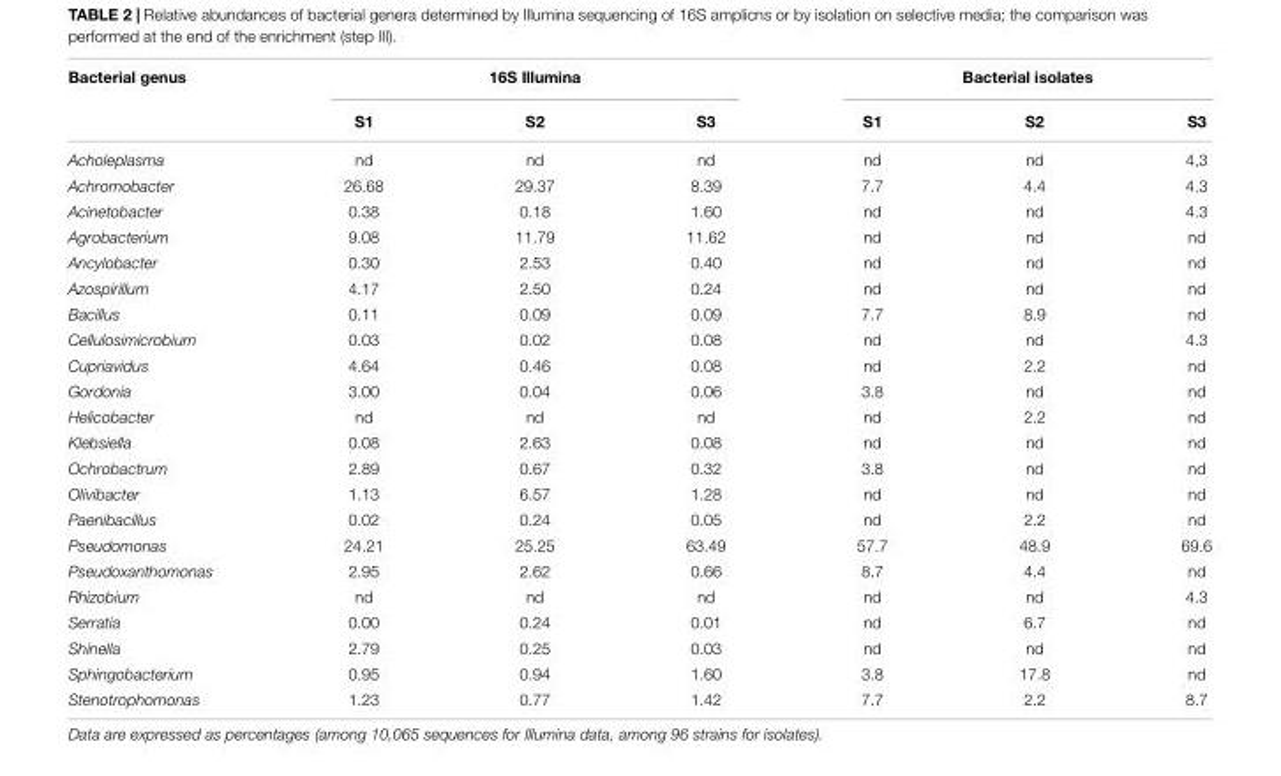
<table><thead><tr><td rowspan="2">Bacterial genus</td><td colspan="3">16S Illumina</td><td colspan="3">Bacterial isolates</td></tr><tr><td>S1</td><td>S2</td><td>S3</td><td>S1</td><td>S2</td><td>S3</td></tr></thead><tbody><tr><td>Acholeplasma</td><td>nd</td><td>nd</td><td>nd</td><td>nd</td><td>nd</td><td>4,3</td></tr><tr><td>Achromobacter</td><td>26.68</td><td>29.37</td><td>8.39</td><td>7.7</td><td>4.4</td><td>4.3</td></tr><tr><td>Acinetobacter</td><td>0.38</td><td>0.18</td><td>1.60</td><td>nd</td><td>nd</td><td>4.3</td></tr><tr><td>Agrobacterium</td><td>9.08</td><td>11.79</td><td>11.62</td><td>nd</td><td>nd</td><td>nd</td></tr><tr><td>Ancylobacter</td><td>0.30</td><td>2.53</td><td>0.40</td><td>nd</td><td>nd</td><td>nd</td></tr><tr><td>Azospirillum</td><td>4.17</td><td>2.50</td><td>0.24</td><td>nd</td><td>nd</td><td>nd</td></tr><tr><td>Bacillus</td><td>0.11</td><td>0.09</td><td>0.09</td><td>7.7</td><td>8.9</td><td>nd</td></tr><tr><td>Cellulosimicrobium</td><td>0.03</td><td>0.02</td><td>0.08</td><td>nd</td><td>nd</td><td>4.3</td></tr><tr><td>Cupriavidus</td><td>4.64</td><td>0.46</td><td>0.08</td><td>nd</td><td>2.2</td><td>nd</td></tr><tr><td>Gordonia</td><td>3.00</td><td>0.04</td><td>0.06</td><td>3.8</td><td>nd</td><td>nd</td></tr><tr><td>Helicobacter</td><td>nd</td><td>nd</td><td>nd</td><td>nd</td><td>2.2</td><td>nd</td></tr><tr><td>Klebsiella</td><td>0.08</td><td>2.63</td><td>0.08</td><td>nd</td><td>nd</td><td>nd</td></tr><tr><td>Ochrobactrum</td><td>2.89</td><td>0.67</td><td>0.32</td><td>3.8</td><td>nd</td><td>nd</td></tr><tr><td>Olivibacter</td><td>1.13</td><td>6.57</td><td>1.28</td><td>nd</td><td>nd</td><td>nd</td></tr><tr><td>Paenibacillus</td><td>0.02</td><td>0.24</td><td>0.05</td><td>nd</td><td>2.2</td><td>nd</td></tr><tr><td>Pseudomonas</td><td>24.21</td><td>25.25</td><td>63.49</td><td>57.7</td><td>48.9</td><td>69.6</td></tr><tr><td>Pseudoxanthomonas</td><td>2.95</td><td>2.62</td><td>0.66</td><td>8.7</td><td>4.4</td><td>nd</td></tr><tr><td>Rhizobium</td><td>nd</td><td>nd</td><td>nd</td><td>nd</td><td>nd</td><td>4.3</td></tr><tr><td>Serratia</td><td>0.00</td><td>0.24</td><td>0.01</td><td>nd</td><td>6.7</td><td>nd</td></tr><tr><td>Shinella</td><td>2.79</td><td>0.25</td><td>0.03</td><td>nd</td><td>nd</td><td>nd</td></tr><tr><td>Sphingobacterium</td><td>0.95</td><td>0.94</td><td>1.60</td><td>3.8</td><td>17.8</td><td>nd</td></tr><tr><td>Stenotrophomonas</td><td>1.23</td><td>0.77</td><td>1.42</td><td>7.7</td><td>2.2</td><td>8.7</td></tr></tbody></table>